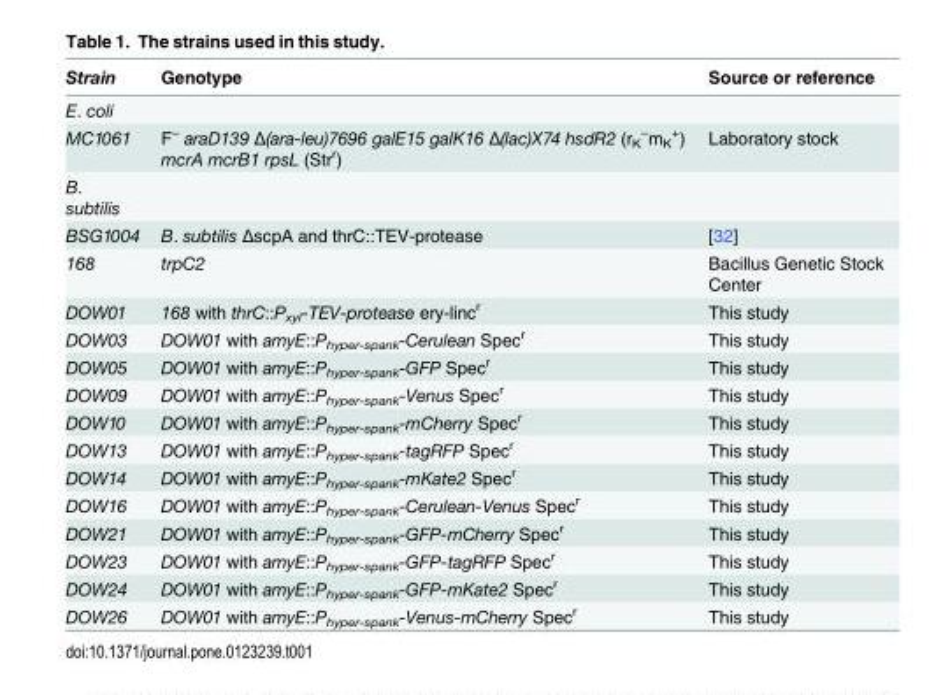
<table><thead><tr><td>Strain</td><td>Genotype</td><td>Source or reference</td></tr></thead><tbody><tr><td colspan="3">E. coli</td></tr><tr><td>MC1061</td><td>F<sup>–</sup> araD139 Δ(ara-leu)7696 galE15 galK16 Δ(lac)X74 hsdR2 (r<sub>K</sub> <sup>–</sup>m<sub>K</sub> <sup>+</sup>) mcrA mcrB1 rpsL (Str<sup>r</sup>)</td><td>Laboratory stock</td></tr><tr><td colspan="3">B. subtilis</td></tr><tr><td>BSG1004</td><td>B. subtilis ΔscpA and thrC::TEV-protease</td><td>[32]</td></tr><tr><td>168</td><td>trpC2</td><td>Bacillus Genetic Stock Center</td></tr><tr><td>DOW01</td><td>168 with thrC::P<sub>xyl</sub>-TEV-protease ery-linc<sup>r</sup></td><td>This study</td></tr><tr><td>DOW03</td><td>DOW01 with amyE::P<sub>hyper-spank</sub>-Cerulean Spec<sup>r</sup></td><td>This study</td></tr><tr><td>DOW05</td><td>DOW01 with amyE::P<sub>hyper-spank</sub>-GFP Spec<sup>r</sup></td><td>This study</td></tr><tr><td>DOW09</td><td>DOW01 with amyE::P<sub>hyper-spank</sub>-Venus Spec<sup>r</sup></td><td>This study</td></tr><tr><td>DOW10</td><td>DOW01 with amyE::P<sub>hyper-spank</sub>-mCherry Spec<sup>r</sup></td><td>This study</td></tr><tr><td>DOW13</td><td>DOW01 with amyE::P<sub>hyper-spank</sub>-tagRFP Spec<sup>r</sup></td><td>This study</td></tr><tr><td>DOW14</td><td>DOW01 with amyE::P<sub>hyper-spank</sub>-mKate2 Spec<sup>r</sup></td><td>This study</td></tr><tr><td>DOW16</td><td>DOW01 with amyE::P<sub>hyper-spank</sub>-Cerulean-Venus Spec<sup>r</sup></td><td>This study</td></tr><tr><td>DOW21</td><td>DOW01 with amyE::P<sub>hyper-spank</sub>-GFP-mCherry Spec<sup>r</sup></td><td>This study</td></tr><tr><td>DOW23</td><td>DOW01 with amyE::P<sub>hyper-spank</sub>-GFP-tagRFP Spec<sup>r</sup></td><td>This study</td></tr><tr><td>DOW24</td><td>DOW01 with amyE::P<sub>hyper-spank</sub>-GFP-mKate2 Spec<sup>r</sup></td><td>This study</td></tr><tr><td>DOW26</td><td>DOW01 with amyE::P<sub>hyper-spank</sub>-Venus-mCherry Spec<sup>r</sup></td><td>This study</td></tr></tbody></table>